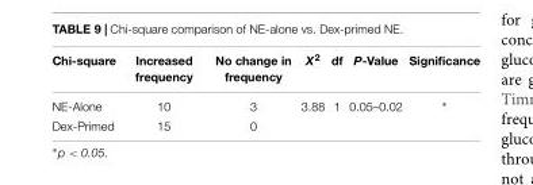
<table><thead><tr><td>Chi-square</td><td>Increased frequency</td><td>No change in frequency</td><td>X<sup>2</sup></td><td>df</td><td>P-Value</td><td>Significance</td></tr></thead><tbody><tr><td>NE-Alone</td><td>10</td><td>3</td><td>3.88</td><td>1</td><td>0.05–0.02</td><td>∗</td></tr><tr><td>Dex-Primed</td><td>15</td><td>0</td><td></td><td></td><td></td><td></td></tr></tbody></table>